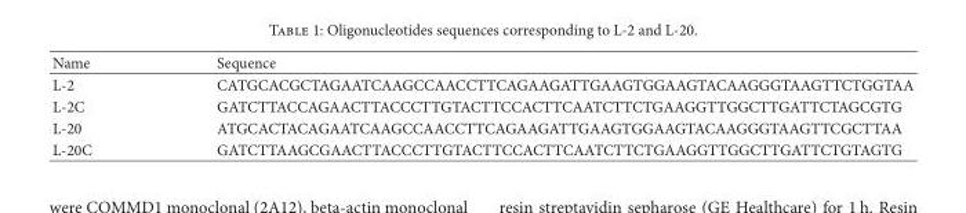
<table><thead><tr><td>Name</td><td>Sequence</td></tr></thead><tbody><tr><td>L-2</td><td>CATGCACGCTAGAATCAAGCCAACCTTCAGAAGATTGAAGTGGAAGTACAAGGGTAAGTTCTGGTAA</td></tr><tr><td>L-2C</td><td>GATCTTACCAGAACTTACCCTTGTACTTCCACTTCAATCTTCTGAAGGTTGGCTTGATTCTAGCGTG</td></tr><tr><td>L-20</td><td>ATGCACTACAGAATCAAGCCAACCTTCAGAAGATTGAAGTGGAAGTACAAGGGTAAGTTCGCTTAA</td></tr><tr><td>L-20C</td><td>GATCTTAAGCGAACTTACCCTTGTACTTCCACTTCAATCTTCTGAAGGTTGGCTTGATTCTGTAGTG</td></tr></tbody></table>